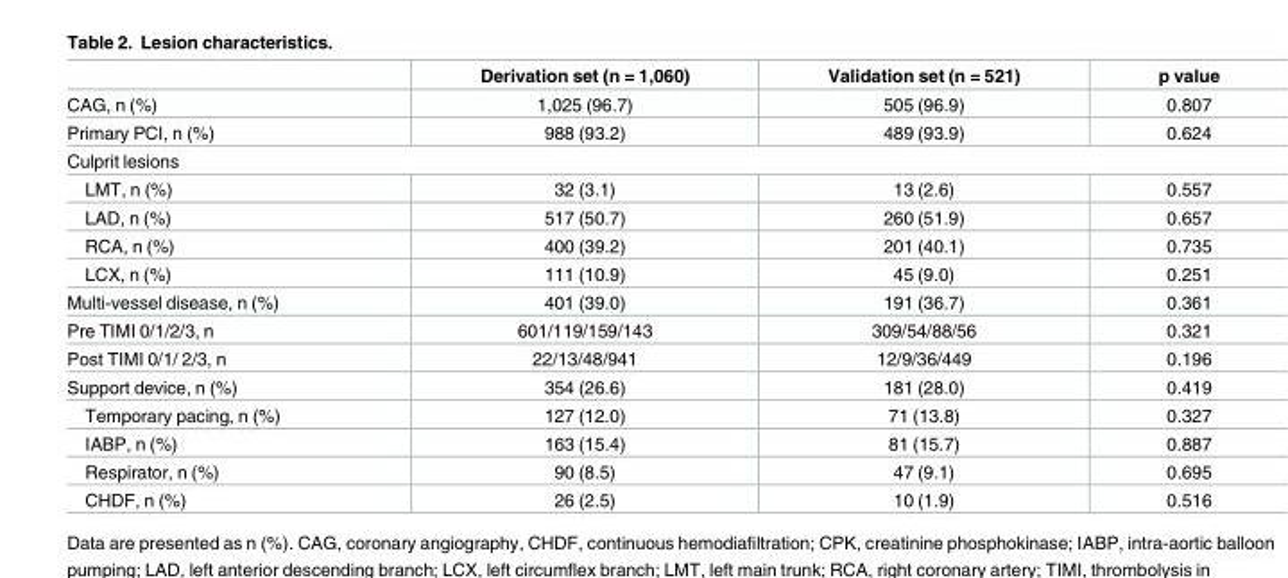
<table><thead><tr><td></td><td>Derivation set (n = 1,060)</td><td>Validation set (n = 521)</td><td>p value</td></tr></thead><tbody><tr><td>CAG, n (%)</td><td>1,025 (96.7)</td><td>505 (96.9)</td><td>0.807</td></tr><tr><td>Primary PCI, n (%)</td><td>988 (93.2)</td><td>489 (93.9)</td><td>0.624</td></tr><tr><td colspan="4">Culprit lesions</td></tr><tr><td>LMT, n (%)</td><td>32 (3.1)</td><td>13 (2.6)</td><td>0.557</td></tr><tr><td>LAD, n (%)</td><td>517 (50.7)</td><td>260 (51.9)</td><td>0.657</td></tr><tr><td>RCA, n (%)</td><td>400 (39.2)</td><td>201 (40.1)</td><td>0.735</td></tr><tr><td>LCX, n (%)</td><td>111 (10.9)</td><td>45 (9.0)</td><td>0.251</td></tr><tr><td>Multi-vessel disease, n (%)</td><td>401 (39.0)</td><td>191 (36.7)</td><td>0.361</td></tr><tr><td>Pre TIMI 0/1/2/3, n</td><td>601/119/159/143</td><td>309/54/88/56</td><td>0.321</td></tr><tr><td>Post TIMI 0/1/ 2/3, n</td><td>22/13/48/941</td><td>12/9/36/449</td><td>0.196</td></tr><tr><td>Support device, n (%)</td><td>354 (26.6)</td><td>181 (28.0)</td><td>0.419</td></tr><tr><td>Temporary pacing, n (%)</td><td>127 (12.0)</td><td>71 (13.8)</td><td>0.327</td></tr><tr><td>IABP, n (%)</td><td>163 (15.4)</td><td>81 (15.7)</td><td>0.887</td></tr><tr><td>Respirator, n (%)</td><td>90 (8.5)</td><td>47 (9.1)</td><td>0.695</td></tr><tr><td>CHDF, n (%)</td><td>26 (2.5)</td><td>10 (1.9)</td><td>0.516</td></tr></tbody></table>